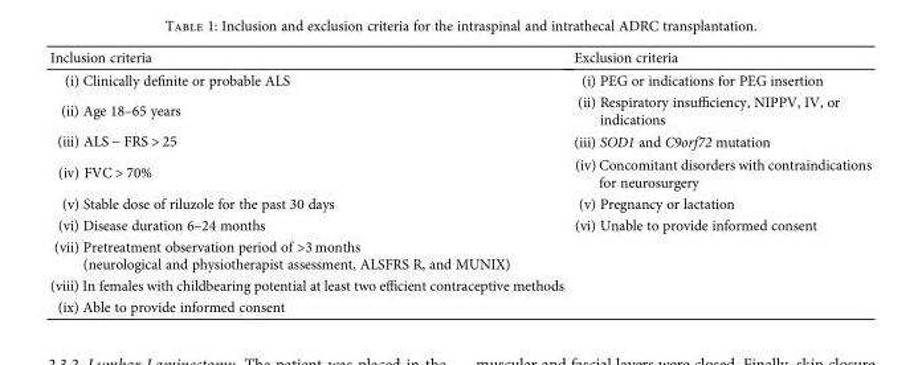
<table><thead><tr><td>Inclusion criteria</td><td>Exclusion criteria</td></tr></thead><tbody><tr><td>(i) Clinically definite or probable ALS</td><td>(i) PEG or indications for PEG insertion</td></tr><tr><td>(ii) Age 18–65 years</td><td>(ii) Respiratory insufficiency, NIPPV, IV, or indications</td></tr><tr><td>(iii) ALS − FRS &gt; 25</td><td>(iii) SOD1 and C9orf72 mutation</td></tr><tr><td>(iv) FVC &gt; 70%</td><td>(iv) Concomitant disorders with contraindications for neurosurgery</td></tr><tr><td>(v) Stable dose of riluzole for the past 30 days</td><td>(v) Pregnancy or lactation</td></tr><tr><td>(vi) Disease duration 6–24 months</td><td>(vi) Unable to provide informed consent</td></tr><tr><td colspan="2">(vii) Pretreatment observation period of &gt;3 months (neurological and physiotherapist assessment, ALSFRS R, and MUNIX)</td></tr><tr><td colspan="2">(viii) In females with childbearing potential at least two efficient contraceptive methods</td></tr><tr><td>(ix) Able to provide informed consent</td><td></td></tr></tbody></table>